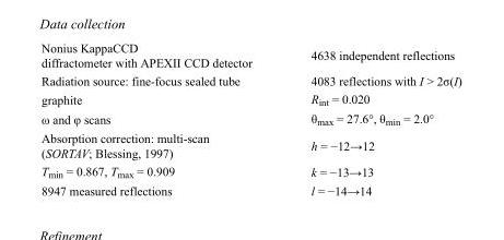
<table><tbody><tr><td>Nonius KappaCCD diffractometer with APEXII CCD detector</td><td>4638 independent reflections</td></tr><tr><td>Radiation source: fine-focus sealed tube</td><td>4083 reflections with I &gt; 2σ(I)</td></tr><tr><td>graphite</td><td>R<sub>int</sub> = 0.020</td></tr><tr><td>ω and φ scans</td><td>θ<sub>max</sub> = 27.6°, θ<sub>min</sub> = 2.0°</td></tr><tr><td>Absorption correction: multi-scan (SORTAV; Blessing, 1997)</td><td>h = −12→12</td></tr><tr><td>T<sub>min</sub> = 0.867, T<sub>max</sub> = 0.909</td><td>k = −13→13</td></tr><tr><td>8947 measured reflections</td><td>l = −14→14</td></tr></tbody></table>